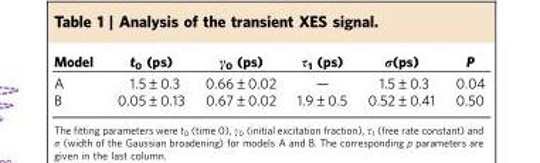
<table><thead><tr><td>Model</td><td>t<sub>0</sub> (ps)</td><td>γ<sub>0</sub> (ps)</td><td>τ<sub>1</sub> (ps)</td><td>σ(ps)</td><td>P</td></tr></thead><tbody><tr><td>A</td><td>1.5±0.3</td><td>0.66±0.02</td><td>—</td><td>1.5±0.3</td><td>0.04</td></tr><tr><td>B</td><td>0.05±0.13</td><td>0.67±0.02</td><td>1.9±0.5</td><td>0.52±0.41</td><td>0.50</td></tr></tbody></table>